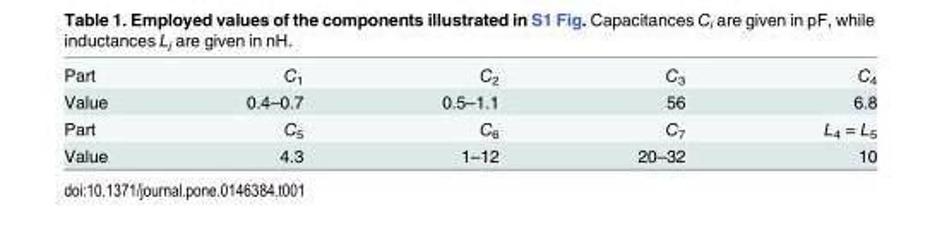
<table><tbody><tr><td>Part</td><td>C<sub>1</sub></td><td>C<sub>2</sub></td><td>C<sub>3</sub></td><td>C<sub>4</sub></td></tr><tr><td>Value</td><td>0.4–0.7</td><td>0.5–1.1</td><td>56</td><td>6.8</td></tr><tr><td>Part</td><td>C<sub>5</sub></td><td>C<sub>6</sub></td><td>C<sub>7</sub></td><td>L<sub>4</sub> = L<sub>5</sub></td></tr><tr><td>Value</td><td>4.3</td><td>1–12</td><td>20–32</td><td>10</td></tr></tbody></table>